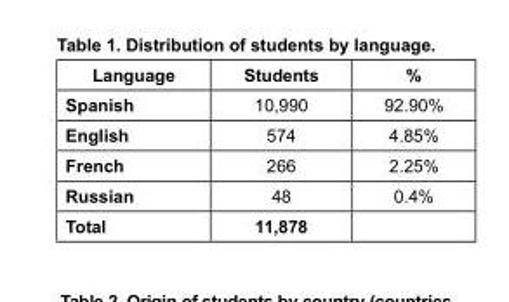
<table><thead><tr><td>Language</td><td>Students</td><td>%</td></tr></thead><tbody><tr><td>Spanish</td><td>10,990</td><td>92.90%</td></tr><tr><td>English</td><td>574</td><td>4.85%</td></tr><tr><td>French</td><td>266</td><td>2.25%</td></tr><tr><td>Russian</td><td>48</td><td>0.4%</td></tr><tr><td>Total</td><td>11,878</td><td></td></tr></tbody></table>